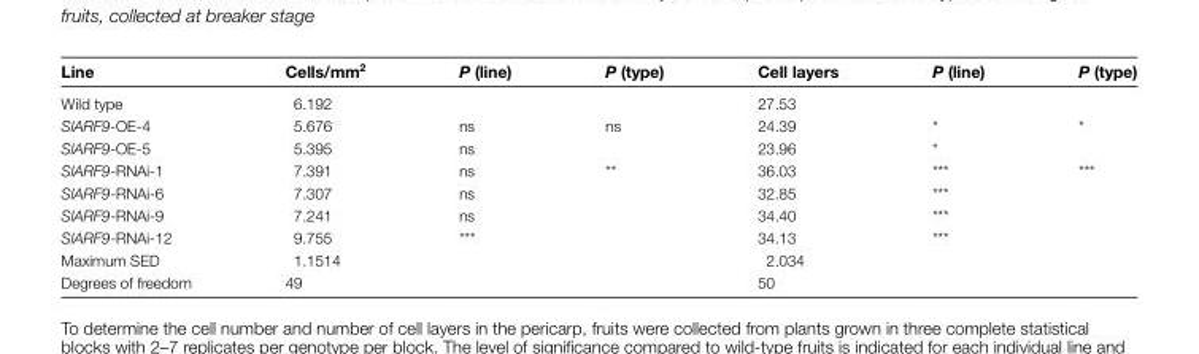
<table><thead><tr><td>Line</td><td>Cells/mm<sup>2</sup></td><td>P (line)</td><td>P (type)</td><td>Cell layers</td><td>P (line)</td><td>P (type)</td></tr></thead><tbody><tr><td>Wild type</td><td>6.192</td><td></td><td></td><td>27.53</td><td></td><td></td></tr><tr><td>SlARF9-OE-4</td><td>5.676</td><td>ns</td><td rowspan="2">ns</td><td>24.39</td><td>*</td><td rowspan="2">*</td></tr><tr><td>SlARF9-OE-5</td><td>5.395</td><td>ns</td><td>23.96</td><td>*</td></tr><tr><td>SlARF9-RNAi-1</td><td>7.391</td><td>ns</td><td rowspan="4">**</td><td>36.03</td><td>***</td><td rowspan="4">***</td></tr><tr><td>SlARF9-RNAi-6</td><td>7.307</td><td>ns</td><td>32.85</td><td>***</td></tr><tr><td>SlARF9-RNAi-9</td><td>7.241</td><td>ns</td><td>34.40</td><td>***</td></tr><tr><td>SlARF9-RNAi-12</td><td>9.755</td><td>***</td><td>34.13</td><td>***</td></tr><tr><td>Maximum SED</td><td>1.1514</td><td></td><td></td><td>2.034</td><td></td><td></td></tr><tr><td>Degrees of freedom</td><td>49</td><td></td><td></td><td>50</td><td></td><td></td></tr></tbody></table>